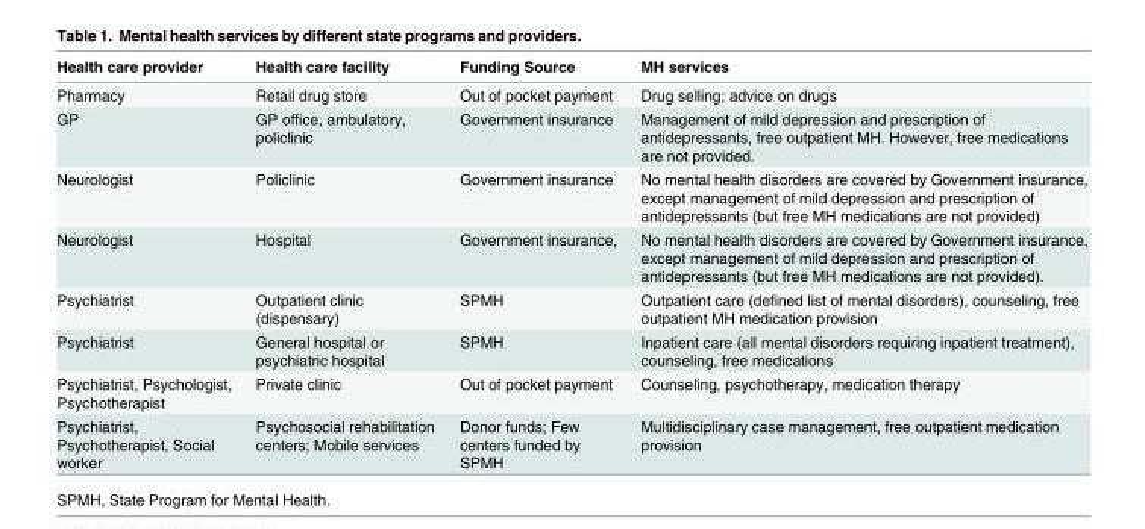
<table><thead><tr><td>Health care provider</td><td>Health care facility</td><td>Funding Source</td><td>MH services</td></tr></thead><tbody><tr><td>Pharmacy</td><td>Retail drug store</td><td>Out of pocket payment</td><td>Drug selling; advice on drugs</td></tr><tr><td>GP</td><td>GP office, ambulatory, policlinic</td><td>Government insurance</td><td>Management of mild depression and prescription of antidepressants, free outpatient MH. However, free medications are not provided.</td></tr><tr><td>Neurologist</td><td>Policlinic</td><td>Government insurance</td><td>No mental health disorders are covered by Government insurance, except management of mild depression and prescription of antidepressants (but free MH medications are not provided)</td></tr><tr><td>Neurologist</td><td>Hospital</td><td>Government insurance,</td><td>No mental health disorders are covered by Government insurance, except management of mild depression and prescription of antidepressants (but free MH medications are not provided).</td></tr><tr><td>Psychiatrist</td><td>Outpatient clinic (dispensary)</td><td>SPMH</td><td>Outpatient care (defined list of mental disorders), counseling, free outpatient MH medication provision</td></tr><tr><td>Psychiatrist</td><td>General hospital or psychiatric hospital</td><td>SPMH</td><td>Inpatient care (all mental disorders requiring inpatient treatment), counseling, free medications</td></tr><tr><td>Psychiatrist, Psychologist, Psychotherapist</td><td>Private clinic</td><td>Out of pocket payment</td><td>Counseling, psychotherapy, medication therapy</td></tr><tr><td>Psychiatrist, Psychotherapist, Social worker</td><td>Psychosocial rehabilitation centers; Mobile services</td><td>Donor funds; Few centers funded by SPMH</td><td>Multidisciplinary case management, free outpatient medication provision</td></tr></tbody></table>